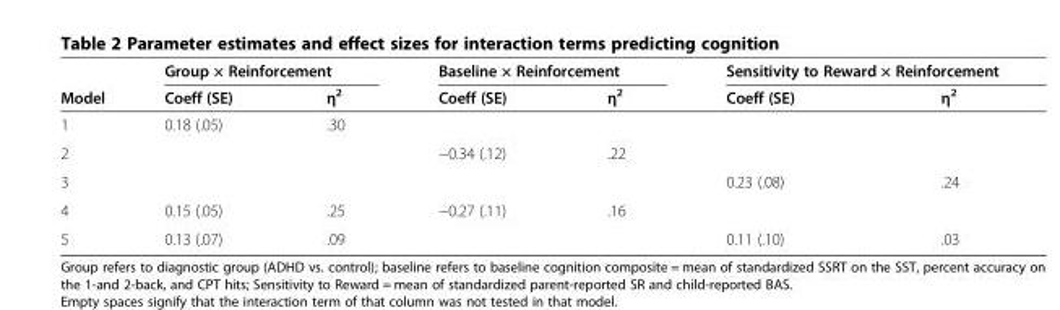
<table><thead><tr><td rowspan="2">Model</td><td colspan="2">Group × Reinforcement</td><td colspan="2">Baseline × Reinforcement</td><td colspan="2">Sensitivity to Reward × Reinforcement</td></tr><tr><td>Coeff (SE)</td><td>η<sup>2</sup></td><td>Coeff (SE)</td><td>η<sup>2</sup></td><td>Coeff (SE)</td><td>η<sup>2</sup></td></tr></thead><tbody><tr><td>1</td><td>0.18 (.05)</td><td>.30</td><td></td><td></td><td></td><td></td></tr><tr><td>2</td><td></td><td></td><td>−0.34 (.12)</td><td>.22</td><td></td><td></td></tr><tr><td>3</td><td></td><td></td><td></td><td></td><td>0.23 (.08)</td><td>.24</td></tr><tr><td>4</td><td>0.15 (.05)</td><td>.25</td><td>−0.27 (.11)</td><td>.16</td><td></td><td></td></tr><tr><td>5</td><td>0.13 (.07)</td><td>.09</td><td></td><td></td><td>0.11 (.10)</td><td>.03</td></tr></tbody></table>